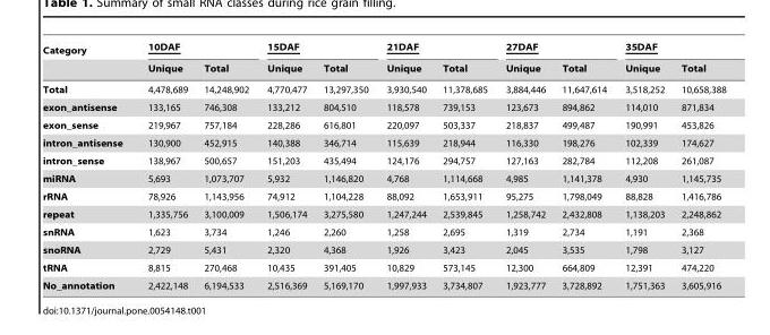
<table><thead><tr><td rowspan="2">Category</td><td colspan="2">10DAF</td><td colspan="2">15DAF</td><td colspan="2">21DAF</td><td colspan="2">27DAF</td><td colspan="2">35DAF</td></tr><tr><td>Unique</td><td>Total</td><td>Unique</td><td>Total</td><td>Unique</td><td>Total</td><td>Unique</td><td>Total</td><td>Unique</td><td>Total</td></tr></thead><tbody><tr><td>Total</td><td>4,478,689</td><td>14,248,902</td><td>4,770,477</td><td>13,297,350</td><td>3,930,540</td><td>11,378,685</td><td>3,884,446</td><td>11,647,614</td><td>3,518,252</td><td>10,658,388</td></tr><tr><td>exon_antisense</td><td>133,165</td><td>746,308</td><td>133,212</td><td>804,510</td><td>118,578</td><td>739,153</td><td>123,673</td><td>894,862</td><td>114,010</td><td>871,834</td></tr><tr><td>exon_sense</td><td>219,967</td><td>757,184</td><td>228,286</td><td>616,801</td><td>220,097</td><td>503,337</td><td>218,837</td><td>499,487</td><td>190,991</td><td>453,826</td></tr><tr><td>intron_antisense</td><td>130,900</td><td>452,915</td><td>140,388</td><td>346,714</td><td>115,639</td><td>218,944</td><td>116,330</td><td>198,276</td><td>102,339</td><td>174,627</td></tr><tr><td>intron_sense</td><td>138,967</td><td>500,657</td><td>151,203</td><td>435,494</td><td>124,176</td><td>294,757</td><td>127,163</td><td>282,784</td><td>112,208</td><td>261,087</td></tr><tr><td>miRNA</td><td>5,693</td><td>1,073,707</td><td>5,932</td><td>1,146,820</td><td>4,768</td><td>1,114,668</td><td>4,985</td><td>1,141,378</td><td>4,930</td><td>1,145,735</td></tr><tr><td>rRNA</td><td>78,926</td><td>1,143,956</td><td>74,912</td><td>1,104,228</td><td>88,092</td><td>1,653,911</td><td>95,275</td><td>1,798,049</td><td>88,828</td><td>1,416,786</td></tr><tr><td>repeat</td><td>1,335,756</td><td>3,100,009</td><td>1,506,174</td><td>3,275,580</td><td>1,247,244</td><td>2,539,845</td><td>1,258,742</td><td>2,432,808</td><td>1,138,203</td><td>2,248,862</td></tr><tr><td>snRNA</td><td>1,623</td><td>3,734</td><td>1,246</td><td>2,260</td><td>1,258</td><td>2,695</td><td>1,319</td><td>2,734</td><td>1,191</td><td>2,368</td></tr><tr><td>snoRNA</td><td>2,729</td><td>5,431</td><td>2,320</td><td>4,368</td><td>1,926</td><td>3,423</td><td>2,045</td><td>3,535</td><td>1,798</td><td>3,127</td></tr><tr><td>tRNA</td><td>8,815</td><td>270,468</td><td>10,435</td><td>391,405</td><td>10,829</td><td>573,145</td><td>12,300</td><td>664,809</td><td>12,391</td><td>474,220</td></tr><tr><td>No_annotation</td><td>2,422,148</td><td>6,194,533</td><td>2,516,369</td><td>5,169,170</td><td>1,997,933</td><td>3,734,807</td><td>1,923,777</td><td>3,728,892</td><td>1,751,363</td><td>3,605,916</td></tr></tbody></table>